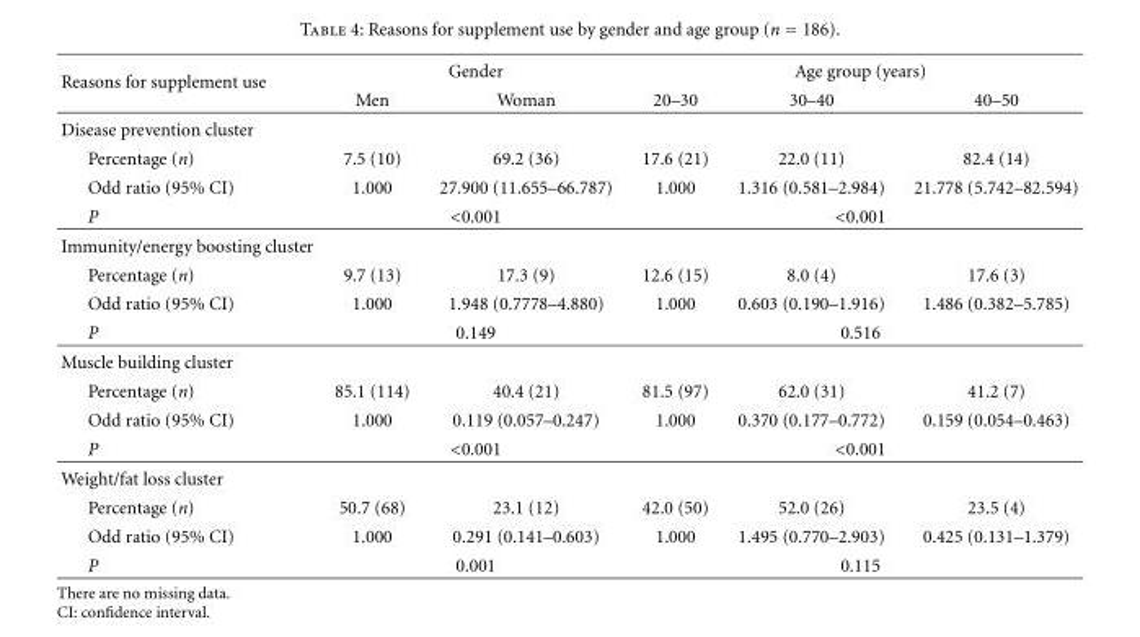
<table><thead><tr><td rowspan="2">Reasons for supplement use</td><td colspan="2">Gender</td><td colspan="3">Age group (years)</td></tr><tr><td>Men</td><td>Woman</td><td>20–30</td><td>30–40</td><td>40–50</td></tr></thead><tbody><tr><td colspan="6">Disease prevention cluster</td></tr><tr><td>Percentage (n)</td><td>7.5 (10)</td><td>69.2 (36)</td><td>17.6 (21)</td><td>22.0 (11)</td><td>82.4 (14)</td></tr><tr><td>Odd ratio (95% CI)</td><td>1.000</td><td>27.900 (11.655–66.787)</td><td>1.000</td><td>1.316 (0.581–2.984)</td><td>21.778 (5.742–82.594)</td></tr><tr><td>P</td><td colspan="2">&lt;0.001</td><td colspan="3">&lt;0.001</td></tr><tr><td colspan="6">Immunity/energy boosting cluster</td></tr><tr><td>Percentage (n)</td><td>9.7 (13)</td><td>17.3 (9)</td><td>12.6 (15)</td><td>8.0 (4)</td><td>17.6 (3)</td></tr><tr><td>Odd ratio (95% CI)</td><td>1.000</td><td>1.948 (0.7778–4.880)</td><td>1.000</td><td>0.603 (0.190–1.916)</td><td>1.486 (0.382–5.785)</td></tr><tr><td>P</td><td colspan="2">0.149</td><td colspan="3">0.516</td></tr><tr><td colspan="6">Muscle building cluster</td></tr><tr><td>Percentage (n)</td><td>85.1 (114)</td><td>40.4 (21)</td><td>81.5 (97)</td><td>62.0 (31)</td><td>41.2 (7)</td></tr><tr><td>Odd ratio (95% CI)</td><td>1.000</td><td>0.119 (0.057–0.247)</td><td>1.000</td><td>0.370 (0.177–0.772)</td><td>0.159 (0.054–0.463)</td></tr><tr><td>P</td><td colspan="2">&lt;0.001</td><td colspan="3">&lt;0.001</td></tr><tr><td colspan="6">Weight/fat loss cluster</td></tr><tr><td>Percentage (n)</td><td>50.7 (68)</td><td>23.1 (12)</td><td>42.0 (50)</td><td>52.0 (26)</td><td>23.5 (4)</td></tr><tr><td>Odd ratio (95% CI)</td><td>1.000</td><td>0.291 (0.141–0.603)</td><td>1.000</td><td>1.495 (0.770–2.903)</td><td>0.425 (0.131–1.379)</td></tr><tr><td>P</td><td colspan="2">0.001</td><td colspan="3">0.115</td></tr></tbody></table>